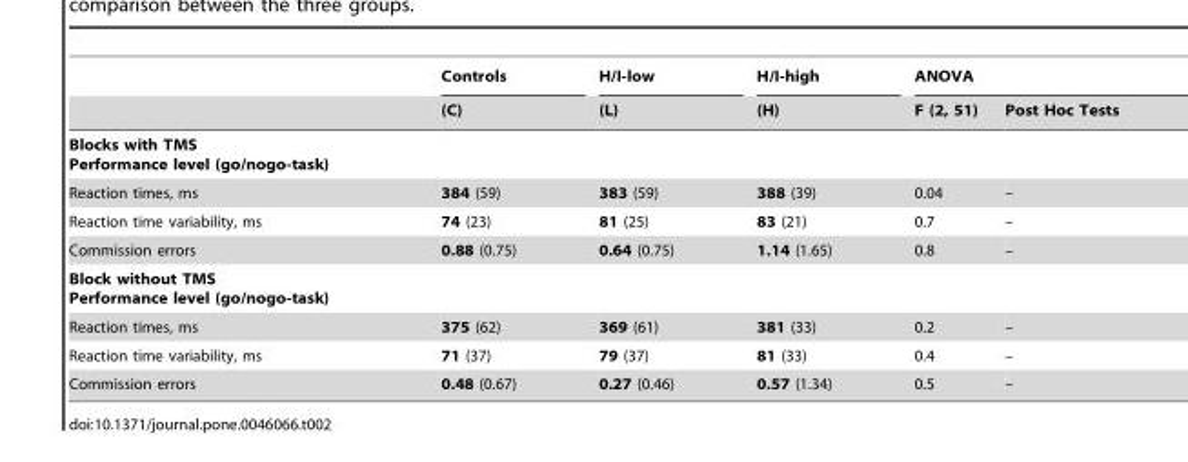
<table><thead><tr><td rowspan="2"></td><td rowspan="2">Controls (C)</td><td rowspan="2">H/I-low (L)</td><td rowspan="2">H/I-high (H)</td><td colspan="2">ANOVA</td></tr><tr><td>F (2, 51)</td><td>Post Hoc Tests</td></tr></thead><tbody><tr><td colspan="6">Blocks with TMS Performance level (go/nogo-task)</td></tr><tr><td>Reaction times, ms</td><td>384 (59)</td><td>383 (59)</td><td>388 (39)</td><td>0.04</td><td>–</td></tr><tr><td>Reaction time variability, ms</td><td>74 (23)</td><td>81 (25)</td><td>83 (21)</td><td>0.7</td><td>–</td></tr><tr><td>Commission errors</td><td>0.88 (0.75)</td><td>0.64 (0.75)</td><td>1.14 (1.65)</td><td>0.8</td><td>–</td></tr><tr><td colspan="6">Block without TMS Performance level (go/nogo-task)</td></tr><tr><td>Reaction times, ms</td><td>375 (62)</td><td>369 (61)</td><td>381 (33)</td><td>0.2</td><td>–</td></tr><tr><td>Reaction time variability, ms</td><td>71 (37)</td><td>79 (37)</td><td>81 (33)</td><td>0.4</td><td>–</td></tr><tr><td>Commission errors</td><td>0.48 (0.67)</td><td>0.27 (0.46)</td><td>0.57 (1.34)</td><td>0.5</td><td>–</td></tr></tbody></table>